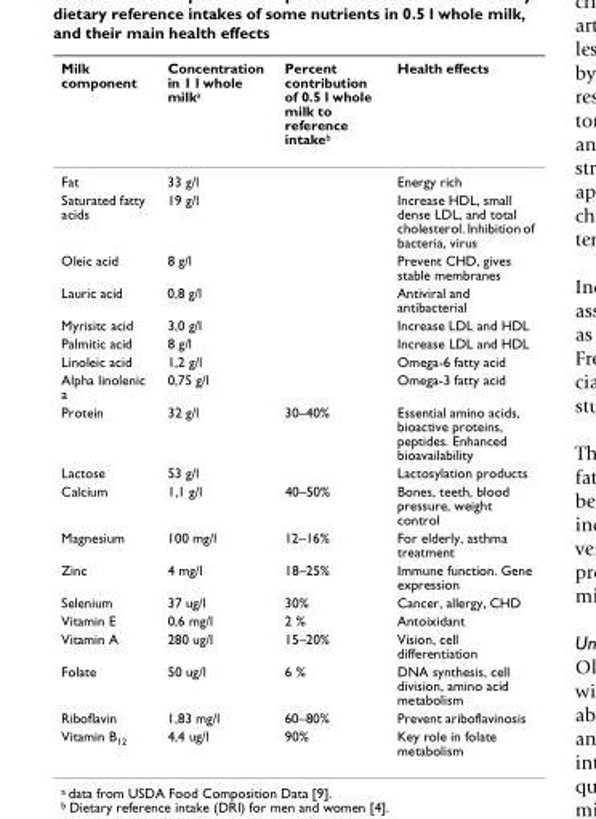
<table><thead><tr><td>Milk component</td><td>Concentration in 1 l whole milk<sup>a</sup></td><td>Percent contribution of 0.5 l whole milk to reference intake<sup>b</sup></td><td>Health effects</td></tr></thead><tbody><tr><td>Fat</td><td>33 g/l</td><td></td><td>Energy rich</td></tr><tr><td>Saturated fatty acids</td><td>19 g/l</td><td></td><td>Increase HDL, small dense LDL, and total cholesterol. Inhibition of bacteria, virus</td></tr><tr><td>Oleic acid</td><td>8 g/l</td><td></td><td>Prevent CHD, gives stable membranes</td></tr><tr><td>Lauric acid</td><td>0,8 g/l</td><td></td><td>Antiviral and antibacterial</td></tr><tr><td>Myrisitc acid</td><td>3,0 g/l</td><td></td><td>Increase LDL and HDL</td></tr><tr><td>Palmitic acid</td><td>8 g/l</td><td></td><td>Increase LDL and HDL</td></tr><tr><td>Linoleic acid</td><td>1,2 g/l</td><td></td><td>Omega-6 fatty acid</td></tr><tr><td>Alpha linolenic a</td><td>0,75 g/l</td><td></td><td>Omega-3 fatty acid</td></tr><tr><td>Protein</td><td>32 g/l</td><td>30–40%</td><td>Essential amino acids, bioactive proteins, peptides. Enhanced bioavailability</td></tr><tr><td>Lactose</td><td>53 g/l</td><td></td><td>Lactosylation products</td></tr><tr><td>Calcium</td><td>1,1 g/l</td><td>40–50%</td><td>Bones, teeth, blood pressure, weight control</td></tr><tr><td>Magnesium</td><td>100 mg/l</td><td>12–16%</td><td>For elderly, asthma treatment</td></tr><tr><td>Zinc</td><td>4 mg/l</td><td>18–25%</td><td>Immune function. Gene expression</td></tr><tr><td>Selenium</td><td>37 ug/l</td><td>30%</td><td>Cancer, allergy, CHD</td></tr><tr><td>Vitamin E</td><td>0,6 mg/l</td><td>2 %</td><td>Antoixidant</td></tr><tr><td>Vitamin A</td><td>280 ug/l</td><td>15–20%</td><td>Vision, cell differentiation</td></tr><tr><td>Folate</td><td>50 ug/l</td><td>6 %</td><td>DNA synthesis, cell division, amino acid metabolism</td></tr><tr><td>Riboflavin</td><td>1,83 mg/l</td><td>60–80%</td><td>Prevent ariboflavinosis</td></tr><tr><td>Vitamin B<sub>12</sub></td><td>4,4 ug/l</td><td>90%</td><td>Key role in folate metabolism</td></tr></tbody></table>